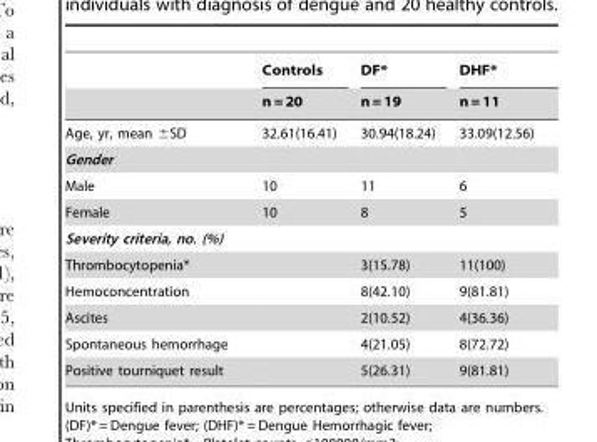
<table><thead><tr><td rowspan="2"></td><td rowspan="2">Controls n = 20</td><td rowspan="2">DF* n = 19</td><td rowspan="2">DHF* n = 11</td></tr><tr></tr></thead><tbody><tr><td>Age, yr, mean ±SD</td><td>32.61(16.41)</td><td>30.94(18.24)</td><td>33.09(12.56)</td></tr><tr><td colspan="4">Gender</td></tr><tr><td>Male</td><td>10</td><td>11</td><td>6</td></tr><tr><td>Female</td><td>10</td><td>8</td><td>5</td></tr><tr><td colspan="4">Severity criteria, no. (%)</td></tr><tr><td>Thrombocytopenia*</td><td></td><td>3(15.78)</td><td>11(100)</td></tr><tr><td>Hemoconcentration</td><td></td><td>8(42.10)</td><td>9(81.81)</td></tr><tr><td>Ascites</td><td></td><td>2(10.52)</td><td>4(36.36)</td></tr><tr><td>Spontaneous hemorrhage</td><td></td><td>4(21.05)</td><td>8(72.72)</td></tr><tr><td>Positive tourniquet result</td><td></td><td>5(26.31)</td><td>9(81.81)</td></tr></tbody></table>